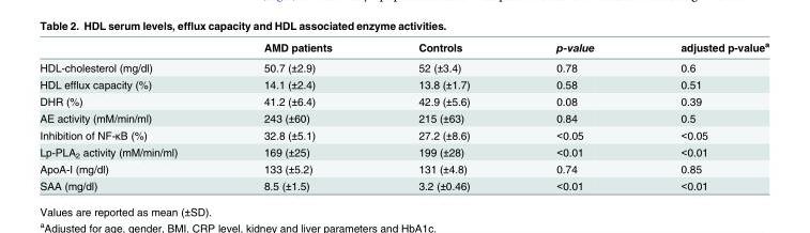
<table><thead><tr><td></td><td>AMD patients</td><td>Controls</td><td>p-value</td><td>adjusted p-value<sup>a</sup></td></tr></thead><tbody><tr><td>HDL-cholesterol (mg/dl)</td><td>50.7 (±2.9)</td><td>52 (±3.4)</td><td>0.78</td><td>0.6</td></tr><tr><td>HDL efflux capacity (%)</td><td>14.1 (±2.4)</td><td>13.8 (±1.7)</td><td>0.58</td><td>0.51</td></tr><tr><td>DHR (%)</td><td>41.2 (±6.4)</td><td>42.9 (±5.6)</td><td>0.08</td><td>0.39</td></tr><tr><td>AE activity (mM/min/ml)</td><td>243 (±60)</td><td>215 (±63)</td><td>0.84</td><td>0.5</td></tr><tr><td>Inhibition of NF-κB (%)</td><td>32.8 (±5.1)</td><td>27.2 (±8.6)</td><td>&lt;0.05</td><td>&lt;0.05</td></tr><tr><td>Lp-PLA<sub>2</sub> activity (mM/min/ml)</td><td>169 (±25)</td><td>199 (±28)</td><td>&lt;0.01</td><td>&lt;0.01</td></tr><tr><td>ApoA-I (mg/dl)</td><td>133 (±5.2)</td><td>131 (±4.8)</td><td>0.74</td><td>0.85</td></tr><tr><td>SAA (mg/dl)</td><td>8.5 (±1.5)</td><td>3.2 (±0.46)</td><td>&lt;0.01</td><td>&lt;0.01</td></tr></tbody></table>